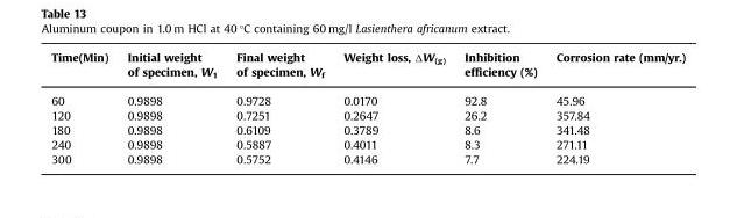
<table><thead><tr><td>Time(Min)</td><td>Initial weight of specimen, W<sub>1</sub></td><td>Final weight of specimen, W<sub>f</sub></td><td>Weight loss, ΔW(g)</td><td>Inhibition efficiency (%)</td><td>Corrosion rate (mm/yr.)</td></tr></thead><tbody><tr><td>60</td><td>0.9898</td><td>0.9728</td><td>0.0170</td><td>92.8</td><td>45.96</td></tr><tr><td>120</td><td>0.9898</td><td>0.7251</td><td>0.2647</td><td>26.2</td><td>357.84</td></tr><tr><td>180</td><td>0.9898</td><td>0.6109</td><td>0.3789</td><td>8.6</td><td>341.48</td></tr><tr><td>240</td><td>0.9898</td><td>0.5887</td><td>0.4011</td><td>8.3</td><td>271.11</td></tr><tr><td>300</td><td>0.9898</td><td>0.5752</td><td>0.4146</td><td>7.7</td><td>224.19</td></tr></tbody></table>